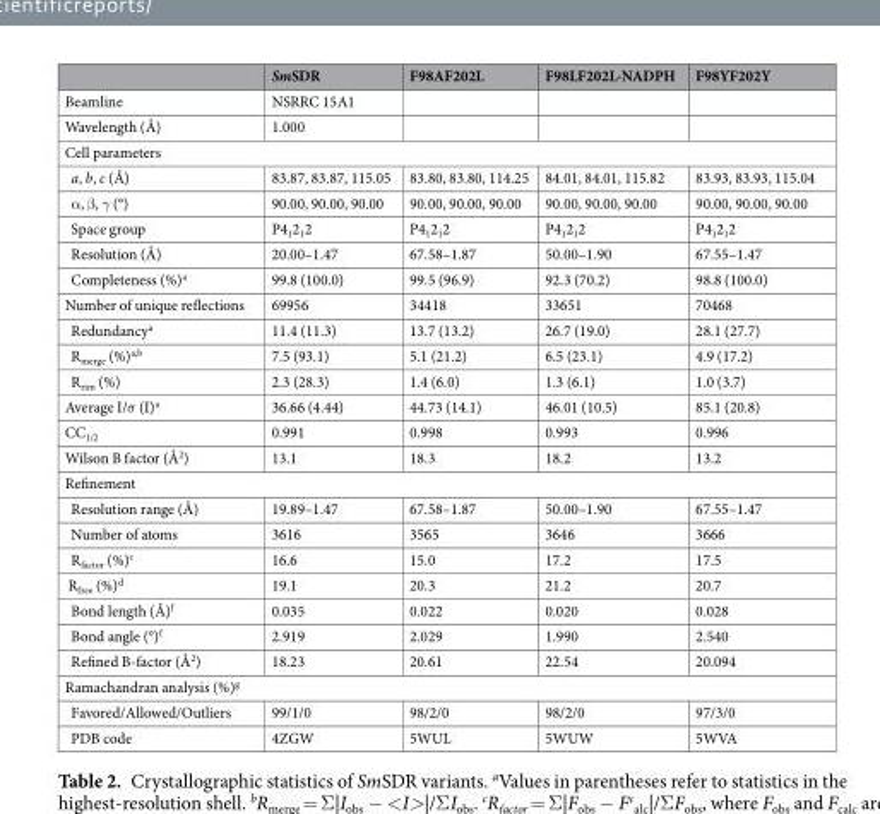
<table><thead><tr><td></td><td>SmSDR</td><td>F98AF202L</td><td>F98LF202L·NADPH</td><td>F98YF202Y</td></tr></thead><tbody><tr><td>Beamline</td><td>NSRRC 15A1</td><td></td><td></td><td></td></tr><tr><td>Wavelength (Å)</td><td>1.000</td><td></td><td></td><td></td></tr><tr><td colspan="5">Cell parameters</td></tr><tr><td>a, b, c (Å)</td><td>83.87, 83.87, 115.05</td><td>83.80, 83.80, 114.25</td><td>84.01, 84.01, 115.82</td><td>83.93, 83.93, 115.04</td></tr><tr><td>α, β, γ (°)</td><td>90.00, 90.00, 90.00</td><td>90.00, 90.00, 90.00</td><td>90.00, 90.00, 90.00</td><td>90.00, 90.00, 90.00</td></tr><tr><td>Space group</td><td>P4<sub>1</sub>2<sub>1</sub>2</td><td>P4<sub>1</sub>2<sub>1</sub>2</td><td>P4<sub>1</sub>2<sub>1</sub>2</td><td>P4<sub>1</sub>2<sub>1</sub>2</td></tr><tr><td>Resolution (Å)</td><td>20.00–1.47</td><td>67.58–1.87</td><td>50.00–1.90</td><td>67.55–1.47</td></tr><tr><td>Completeness (%)<sup>a</sup></td><td>99.8 (100.0)</td><td>99.5 (96.9)</td><td>92.3 (70.2)</td><td>98.8 (100.0)</td></tr><tr><td>Number of unique reflections</td><td>69956</td><td>34418</td><td>33651</td><td>70468</td></tr><tr><td>Redundancy<sup>a</sup></td><td>11.4 (11.3)</td><td>13.7 (13.2)</td><td>26.7 (19.0)</td><td>28.1 (27.7)</td></tr><tr><td>R<sub>merge</sub> (%)<sup>a,b</sup></td><td>7.5 (93.1)</td><td>5.1 (21.2)</td><td>6.5 (23.1)</td><td>4.9 (17.2)</td></tr><tr><td>R<sub>rim</sub> (%)</td><td>2.3 (28.3)</td><td>1.4 (6.0)</td><td>1.3 (6.1)</td><td>1.0 (3.7)</td></tr><tr><td>Average I/σ (I)<sup>a</sup></td><td>36.66 (4.44)</td><td>44.73 (14.1)</td><td>46.01 (10.5)</td><td>85.1 (20.8)</td></tr><tr><td>CC<sub>1/2</sub></td><td>0.991</td><td>0.998</td><td>0.993</td><td>0.996</td></tr><tr><td>Wilson B factor (Å<sup>2</sup>)</td><td>13.1</td><td>18.3</td><td>18.2</td><td>13.2</td></tr><tr><td colspan="5">Refinement</td></tr><tr><td>Resolution range (Å)</td><td>19.89–1.47</td><td>67.58–1.87</td><td>50.00–1.90</td><td>67.55–1.47</td></tr><tr><td>Number of atoms</td><td>3616</td><td>3565</td><td>3646</td><td>3666</td></tr><tr><td>R<sub>factor</sub> (%)<sup>c</sup></td><td>16.6</td><td>15.0</td><td>17.2</td><td>17.5</td></tr><tr><td>R<sub>free</sub> (%)<sup>d</sup></td><td>19.1</td><td>20.3</td><td>21.2</td><td>20.7</td></tr><tr><td>Bond length (Å)<sup>f</sup></td><td>0.035</td><td>0.022</td><td>0.020</td><td>0.028</td></tr><tr><td>Bond angle (°)<sup>f</sup></td><td>2.919</td><td>2.029</td><td>1.990</td><td>2.540</td></tr><tr><td>Refined B-factor (Å<sup>2</sup>)</td><td>18.23</td><td>20.61</td><td>22.54</td><td>20.094</td></tr><tr><td colspan="5">Ramachandran analysis (%)<sup>g</sup></td></tr><tr><td>Favored/Allowed/Outliers</td><td>99/1/0</td><td>98/2/0</td><td>98/2/0</td><td>97/3/0</td></tr><tr><td>PDB code</td><td>4ZGW</td><td>5WUL</td><td>5WUW</td><td>5WVA</td></tr></tbody></table>